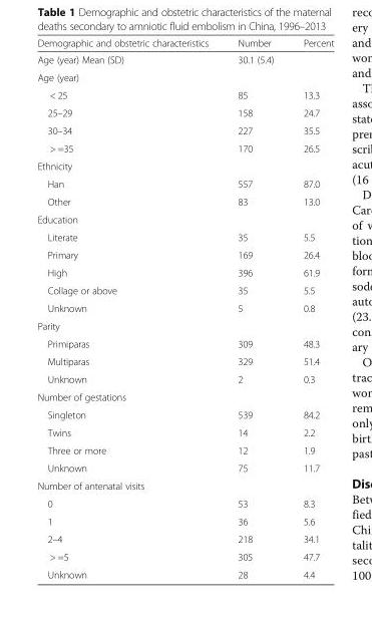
<table><thead><tr><td>Demographic and obstetric characteristics</td><td>Number</td><td>Percent</td></tr></thead><tbody><tr><td>Age (year) Mean (SD)</td><td>30.1 (5.4)</td><td></td></tr><tr><td colspan="3">Age (year)</td></tr><tr><td>&lt; 25</td><td>85</td><td>13.3</td></tr><tr><td>25–29</td><td>158</td><td>24.7</td></tr><tr><td>30–34</td><td>227</td><td>35.5</td></tr><tr><td>&gt; =35</td><td>170</td><td>26.5</td></tr><tr><td colspan="3">Ethnicity</td></tr><tr><td>Han</td><td>557</td><td>87.0</td></tr><tr><td>Other</td><td>83</td><td>13.0</td></tr><tr><td colspan="3">Education</td></tr><tr><td>Literate</td><td>35</td><td>5.5</td></tr><tr><td>Primary</td><td>169</td><td>26.4</td></tr><tr><td>High</td><td>396</td><td>61.9</td></tr><tr><td>Collage or above</td><td>35</td><td>5.5</td></tr><tr><td>Unknown</td><td>5</td><td>0.8</td></tr><tr><td colspan="3">Parity</td></tr><tr><td>Primiparas</td><td>309</td><td>48.3</td></tr><tr><td>Multiparas</td><td>329</td><td>51.4</td></tr><tr><td>Unknown</td><td>2</td><td>0.3</td></tr><tr><td colspan="3">Number of gestations</td></tr><tr><td>Singleton</td><td>539</td><td>84.2</td></tr><tr><td>Twins</td><td>14</td><td>2.2</td></tr><tr><td>Three or more</td><td>12</td><td>1.9</td></tr><tr><td>Unknown</td><td>75</td><td>11.7</td></tr><tr><td colspan="3">Number of antenatal visits</td></tr><tr><td>0</td><td>53</td><td>8.3</td></tr><tr><td>1</td><td>36</td><td>5.6</td></tr><tr><td>2–4</td><td>218</td><td>34.1</td></tr><tr><td>&gt; =5</td><td>305</td><td>47.7</td></tr><tr><td>Unknown</td><td>28</td><td>4.4</td></tr></tbody></table>